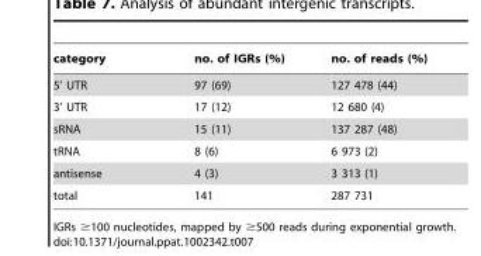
<table><thead><tr><td>category</td><td>no. of IGRs (%)</td><td>no. of reads (%)</td></tr></thead><tbody><tr><td>5’ UTR</td><td>97 (69)</td><td>127 478 (44)</td></tr><tr><td>3’ UTR</td><td>17 (12)</td><td>12 680 (4)</td></tr><tr><td>sRNA</td><td>15 (11)</td><td>137 287 (48)</td></tr><tr><td>tRNA</td><td>8 (6)</td><td>6 973 (2)</td></tr><tr><td>antisense</td><td>4 (3)</td><td>3 313 (1)</td></tr><tr><td>total</td><td>141</td><td>287 731</td></tr></tbody></table>